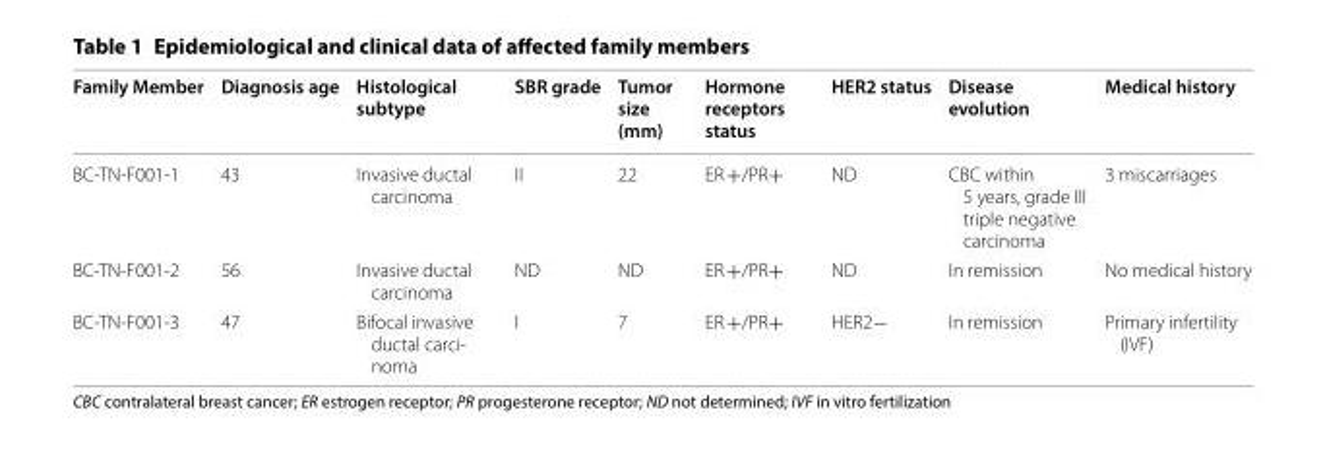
<table><thead><tr><td>Family Member</td><td>Diagnosis age</td><td>Histological subtype</td><td>SBR grade</td><td>Tumor size (mm)</td><td>Hormone receptors status</td><td>HER2 status</td><td>Disease evolution</td><td>Medical history</td></tr></thead><tbody><tr><td>BC-TN-F001-1</td><td>43</td><td>Invasive ductal carcinoma</td><td>II</td><td>22</td><td>ER +/PR+</td><td>ND</td><td>CBC within 5 years, grade III triple negative carcinoma</td><td>3 miscarriages</td></tr><tr><td>BC-TN-F001-2</td><td>56</td><td>Invasive ductal carcinoma</td><td>ND</td><td>ND</td><td>ER +/PR+</td><td>ND</td><td>In remission</td><td>No medical history</td></tr><tr><td>BC-TN-F001-3</td><td>47</td><td>Bifocal invasive ductal carci- noma</td><td>I</td><td>7</td><td>ER +/PR+</td><td>HER2−</td><td>In remission</td><td>Primary infertility (IVF)</td></tr></tbody></table>